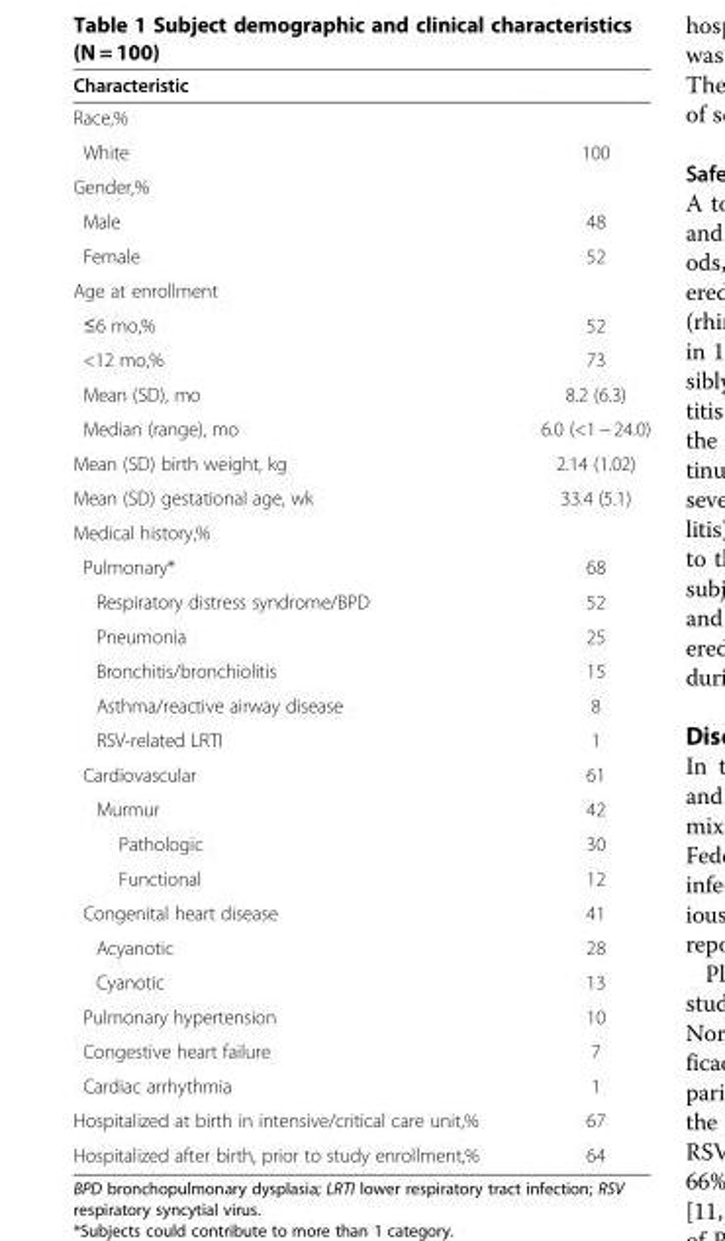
<table><thead><tr><td>Characteristic</td><td></td></tr></thead><tbody><tr><td colspan="2">Race,%</td></tr><tr><td>White</td><td>100</td></tr><tr><td colspan="2">Gender,%</td></tr><tr><td>Male</td><td>48</td></tr><tr><td>Female</td><td>52</td></tr><tr><td colspan="2">Age at enrollment</td></tr><tr><td>≤6 mo,%</td><td>52</td></tr><tr><td>&lt;12 mo,%</td><td>73</td></tr><tr><td>Mean (SD), mo</td><td>8.2 (6.3)</td></tr><tr><td>Median (range), mo</td><td>6.0 (&lt;1 − 24.0)</td></tr><tr><td>Mean (SD) birth weight, kg</td><td>2.14 (1.02)</td></tr><tr><td>Mean (SD) gestational age, wk</td><td>33.4 (5.1)</td></tr><tr><td colspan="2">Medical history,%</td></tr><tr><td>Pulmonary*</td><td>68</td></tr><tr><td>Respiratory distress syndrome/BPD</td><td>52</td></tr><tr><td>Pneumonia</td><td>25</td></tr><tr><td>Bronchitis/bronchiolitis</td><td>15</td></tr><tr><td>Asthma/reactive airway disease</td><td>8</td></tr><tr><td>RSV-related LRTI</td><td>1</td></tr><tr><td>Cardiovascular</td><td>61</td></tr><tr><td>Murmur</td><td>42</td></tr><tr><td>Pathologic</td><td>30</td></tr><tr><td>Functional</td><td>12</td></tr><tr><td>Congenital heart disease</td><td>41</td></tr><tr><td>Acyanotic</td><td>28</td></tr><tr><td>Cyanotic</td><td>13</td></tr><tr><td>Pulmonary hypertension</td><td>10</td></tr><tr><td>Congestive heart failure</td><td>7</td></tr><tr><td>Cardiac arrhythmia</td><td>1</td></tr><tr><td>Hospitalized at birth in intensive/critical care unit,%</td><td>67</td></tr><tr><td>Hospitalized after birth, prior to study enrollment,%</td><td>64</td></tr></tbody></table>